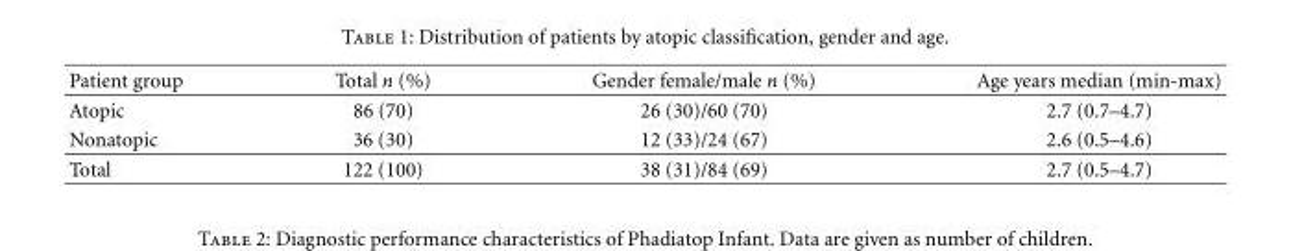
<table><thead><tr><td>Patient group</td><td>Total n (%)</td><td>Gender female/male n (%)</td><td>Age years median (min-max)</td></tr></thead><tbody><tr><td>Atopic</td><td>86 (70)</td><td>26 (30)/60 (70)</td><td>2.7 (0.7–4.7)</td></tr><tr><td>Nonatopic</td><td>36 (30)</td><td>12 (33)/24 (67)</td><td>2.6 (0.5–4.6)</td></tr><tr><td>Total</td><td>122 (100)</td><td>38 (31)/84 (69)</td><td>2.7 (0.5–4.7)</td></tr></tbody></table>